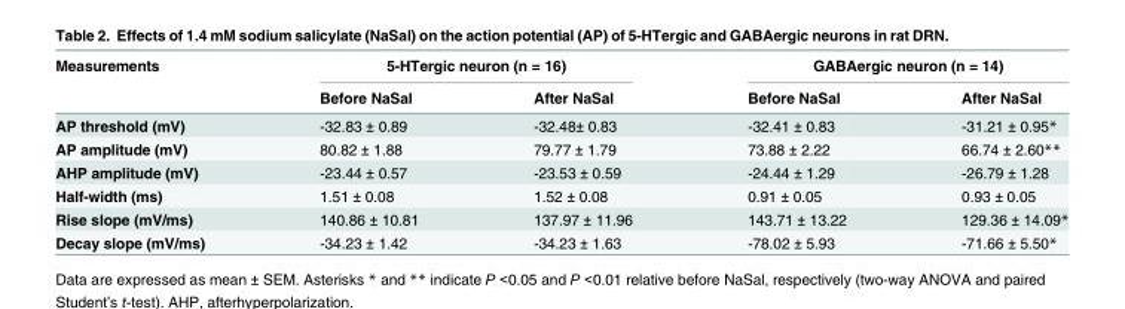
<table><thead><tr><td rowspan="2">Measurements</td><td colspan="2">5-HTergic neuron (n = 16)</td><td colspan="2">GABAergic neuron (n = 14)</td></tr><tr><td>Before NaSal</td><td>After NaSal</td><td>Before NaSal</td><td>After NaSal</td></tr></thead><tbody><tr><td>AP threshold (mV)</td><td>-32.83 ± 0.89</td><td>-32.48± 0.83</td><td>-32.41 ± 0.83</td><td>-31.21 ± 0.95*</td></tr><tr><td>AP amplitude (mV)</td><td>80.82 ± 1.88</td><td>79.77 ± 1.79</td><td>73.88 ± 2.22</td><td>66.74 ± 2.60**</td></tr><tr><td>AHP amplitude (mV)</td><td>-23.44 ± 0.57</td><td>-23.53 ± 0.59</td><td>-24.44 ± 1.29</td><td>-26.79 ± 1.28</td></tr><tr><td>Half-width (ms)</td><td>1.51 ± 0.08</td><td>1.52 ± 0.08</td><td>0.91 ± 0.05</td><td>0.93 ± 0.05</td></tr><tr><td>Rise slope (mV/ms)</td><td>140.86 ± 10.81</td><td>137.97 ± 11.96</td><td>143.71 ± 13.22</td><td>129.36 ± 14.09*</td></tr><tr><td>Decay slope (mV/ms)</td><td>-34.23 ± 1.42</td><td>-34.23 ± 1.63</td><td>-78.02 ± 5.93</td><td>-71.66 ± 5.50*</td></tr></tbody></table>